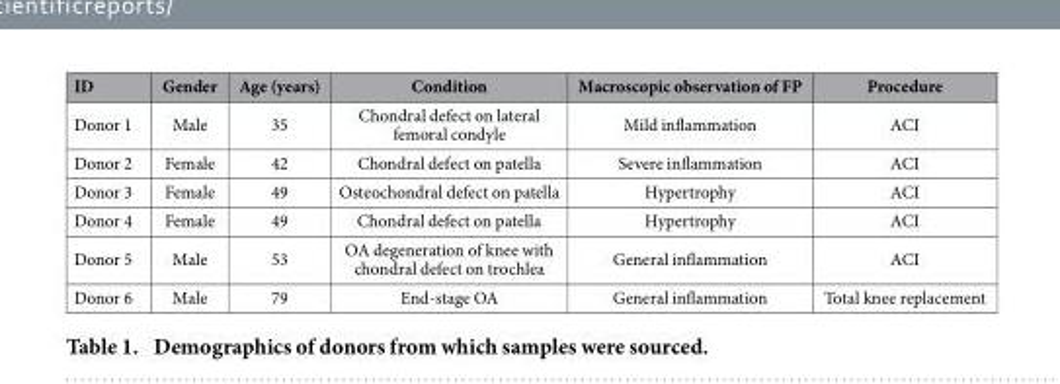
<table><thead><tr><td>ID</td><td>Gender</td><td>Age (years)</td><td>Condition</td><td>Macroscopic observation of FP</td><td>Procedure</td></tr></thead><tbody><tr><td>Donor 1</td><td>Male</td><td>35</td><td>Chondral defect on lateral femoral condyle</td><td>Mild inflammation</td><td>ACI</td></tr><tr><td>Donor 2</td><td>Female</td><td>42</td><td>Chondral defect on patella</td><td>Severe inflammation</td><td>ACI</td></tr><tr><td>Donor 3</td><td>Female</td><td>49</td><td>Osteochondral defect on patella</td><td>Hypertrophy</td><td>ACI</td></tr><tr><td>Donor 4</td><td>Female</td><td>49</td><td>Chondral defect on patella</td><td>Hypertrophy</td><td>ACI</td></tr><tr><td>Donor 5</td><td>Male</td><td>53</td><td>OA degeneration of knee with chondral defect on trochlea</td><td>General inflammation</td><td>ACI</td></tr><tr><td>Donor 6</td><td>Male</td><td>79</td><td>End-stage OA</td><td>General inflammation</td><td>Total knee replacement</td></tr></tbody></table>